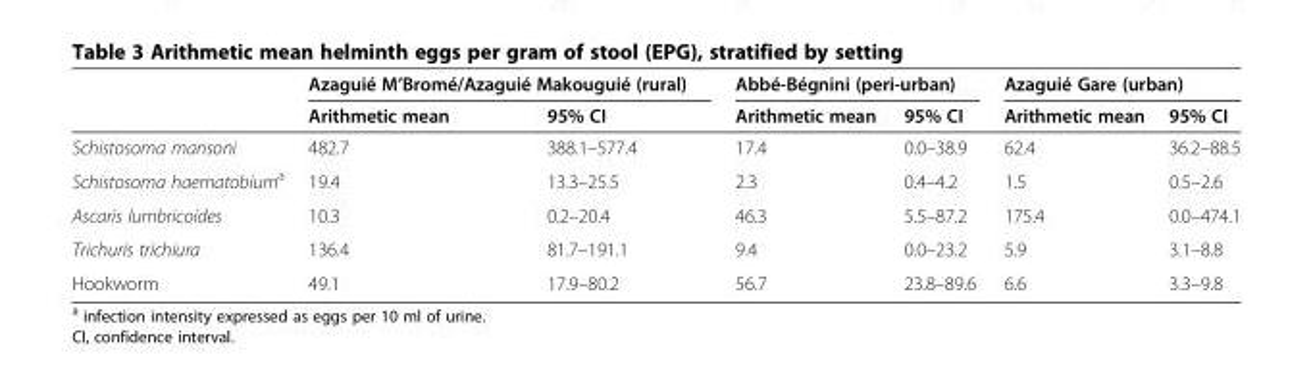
<table><thead><tr><td rowspan="2"></td><td colspan="2">Azaguié M’Bromé/Azaguié Makouguié (rural)</td><td colspan="2">Abbé-Bégnini (peri-urban)</td><td colspan="2">Azaguié Gare (urban)</td></tr><tr><td>Arithmetic mean</td><td>95% CI</td><td>Arithmetic mean</td><td>95% CI</td><td>Arithmetic mean</td><td>95% CI</td></tr></thead><tbody><tr><td>Schistosoma mansoni</td><td>482.7</td><td>388.1–577.4</td><td>17.4</td><td>0.0–38.9</td><td>62.4</td><td>36.2–88.5</td></tr><tr><td>Schistosoma haematobium<sup>a</sup></td><td>19.4</td><td>13.3–25.5</td><td>2.3</td><td>0.4–4.2</td><td>1.5</td><td>0.5–2.6</td></tr><tr><td>Ascaris lumbricoides</td><td>10.3</td><td>0.2–20.4</td><td>46.3</td><td>5.5–87.2</td><td>175.4</td><td>0.0–474.1</td></tr><tr><td>Trichuris trichiura</td><td>136.4</td><td>81.7–191.1</td><td>9.4</td><td>0.0–23.2</td><td>5.9</td><td>3.1–8.8</td></tr><tr><td>Hookworm</td><td>49.1</td><td>17.9–80.2</td><td>56.7</td><td>23.8–89.6</td><td>6.6</td><td>3.3–9.8</td></tr></tbody></table>